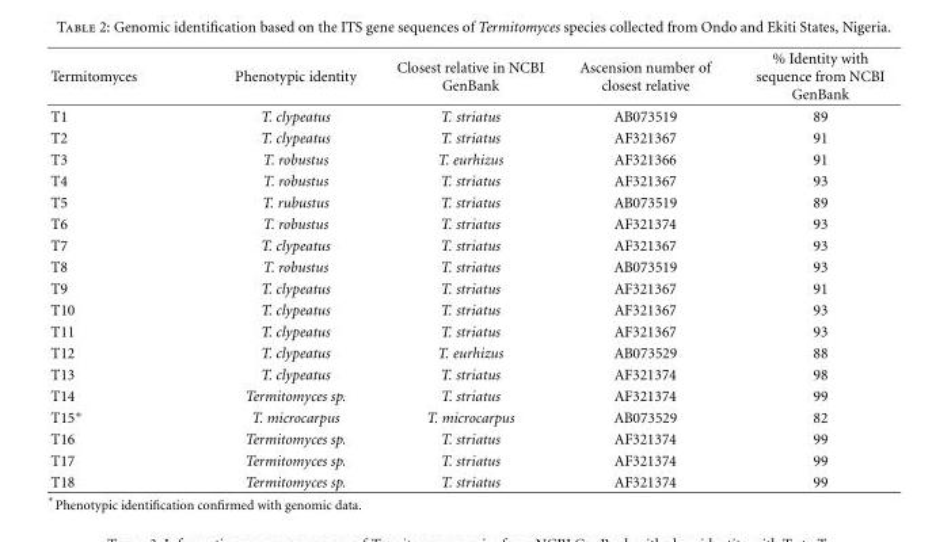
<table><thead><tr><td>Termitomyces</td><td>Phenotypic identity</td><td>Closest relative in NCBI GenBank</td><td>Ascension number of closest relative</td><td>% Identity with sequence from NCBI GenBank</td></tr></thead><tbody><tr><td>T1</td><td>T. clypeatus</td><td>T. striatus</td><td>AB073519</td><td>89</td></tr><tr><td>T2</td><td>T. clypeatus</td><td>T. striatus</td><td>AF321367</td><td>91</td></tr><tr><td>T3</td><td>T. robustus</td><td>T. eurhizus</td><td>AF321366</td><td>91</td></tr><tr><td>T4</td><td>T. robustus</td><td>T. striatus</td><td>AF321367</td><td>93</td></tr><tr><td>T5</td><td>T. rubustus</td><td>T. striatus</td><td>AB073519</td><td>89</td></tr><tr><td>T6</td><td>T. robustus</td><td>T. striatus</td><td>AF321374</td><td>93</td></tr><tr><td>T7</td><td>T. clypeatus</td><td>T. striatus</td><td>AF321367</td><td>93</td></tr><tr><td>T8</td><td>T. robustus</td><td>T. striatus</td><td>AB073519</td><td>93</td></tr><tr><td>T9</td><td>T. clypeatus</td><td>T. striatus</td><td>AF321367</td><td>91</td></tr><tr><td>T10</td><td>T. clypeatus</td><td>T. striatus</td><td>AF321367</td><td>93</td></tr><tr><td>T11</td><td>T. clypeatus</td><td>T. striatus</td><td>AF321367</td><td>93</td></tr><tr><td>T12</td><td>T. clypeatus</td><td>T. eurhizus</td><td>AB073529</td><td>88</td></tr><tr><td>T13</td><td>T. clypeatus</td><td>T. striatus</td><td>AF321374</td><td>98</td></tr><tr><td>T14</td><td>Termitomyces sp.</td><td>T. striatus</td><td>AF321374</td><td>99</td></tr><tr><td>T15∗</td><td>T. microcarpus</td><td>T. microcarpus</td><td>AB073529</td><td>82</td></tr><tr><td>T16</td><td>Termitomyces sp.</td><td>T. striatus</td><td>AF321374</td><td>99</td></tr><tr><td>T17</td><td>Termitomyces sp.</td><td>T. striatus</td><td>AF321374</td><td>99</td></tr><tr><td>T18</td><td>Termitomyces sp.</td><td>T. striatus</td><td>AF321374</td><td>99</td></tr></tbody></table>